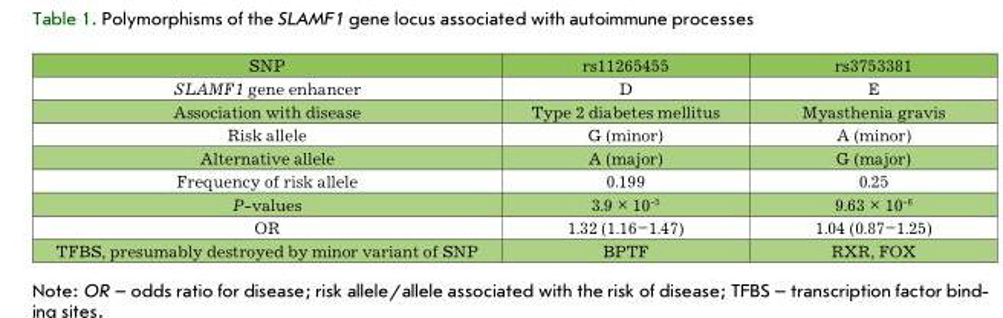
<table><thead><tr><td>SNP</td><td>rs11265455</td><td>rs3753381</td></tr></thead><tbody><tr><td>SLAMF1 gene enhancer</td><td>D</td><td>E</td></tr><tr><td>Association with disease</td><td>Type 2 diabetes mellitus</td><td>Myasthenia gravis</td></tr><tr><td>Risk allele</td><td>G (minor)</td><td>A (minor)</td></tr><tr><td>Alternative allele</td><td>A (major)</td><td>G (major)</td></tr><tr><td>Frequency of risk allele</td><td>0.199</td><td>0.25</td></tr><tr><td>P-values</td><td>3.9 × 10<sup>-5</sup></td><td>9.63 × 10<sup>-6</sup></td></tr><tr><td>OR</td><td>1.32 (1.16–1.47)</td><td>1.04 (0.87–1.25)</td></tr><tr><td>TFBS, presumably destroyed by minor variant of SNP</td><td>BPTF</td><td>RXR, FOX</td></tr></tbody></table>